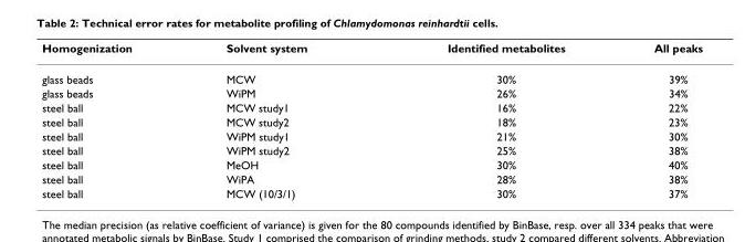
<table><thead><tr><td>Homogenization</td><td>Solvent system</td><td>Identified metabolites</td><td>All peaks</td></tr></thead><tbody><tr><td>glass beads</td><td>MCW</td><td>30%</td><td>39%</td></tr><tr><td>glass beads</td><td>WiPM</td><td>26%</td><td>34%</td></tr><tr><td>steel ball</td><td>MCW study1</td><td>16%</td><td>22%</td></tr><tr><td>steel ball</td><td>MCW study2</td><td>18%</td><td>23%</td></tr><tr><td>steel ball</td><td>WiPM study1</td><td>21%</td><td>30%</td></tr><tr><td>steel ball</td><td>WiPM study2</td><td>25%</td><td>38%</td></tr><tr><td>steel ball</td><td>MeOH</td><td>30%</td><td>40%</td></tr><tr><td>steel ball</td><td>WiPA</td><td>28%</td><td>38%</td></tr><tr><td>steel ball</td><td>MCW (10/3/1)</td><td>30%</td><td>37%</td></tr></tbody></table>